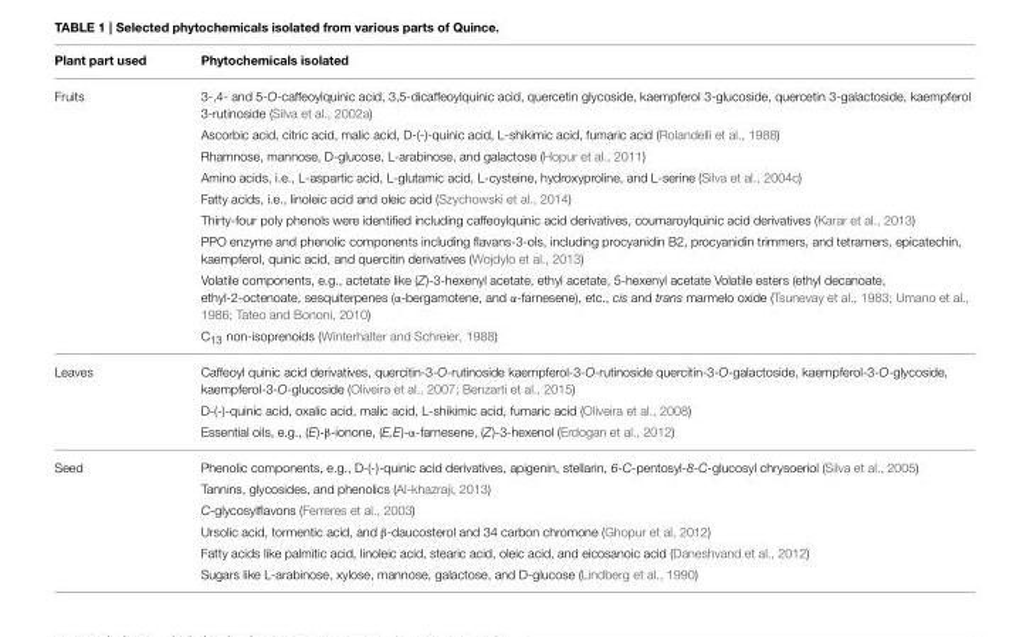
<table><thead><tr><td>Plant part used</td><td>Phytochemicals isolated</td></tr></thead><tbody><tr><td rowspan="9">Fruits</td><td>3-,4- and 5-O-caffeoylquinic acid, 3,5-dicaffeoylquinic acid, quercetin glycoside, kaempferol 3-glucoside, quercetin 3-galactoside, kaempferol 3-rutinoside (Silva et al., 2002a)</td></tr><tr><td>Ascorbic acid, citric acid, malic acid, D-(-)-quinic acid, L-shikimic acid, fumaric acid (Rolandelli et al., 1988)</td></tr><tr><td>Rhamnose, mannose, D-glucose, L-arabinose, and galactose (Hopur et al., 2011)</td></tr><tr><td>Amino acids, i.e., L-aspartic acid, L-glutamic acid, L-cysteine, hydroxyproline, and L-serine (Silva et al., 2004c)</td></tr><tr><td>Fatty acids, i.e., linoleic acid and oleic acid (Szychowski et al., 2014)</td></tr><tr><td>Thirty-four poly phenols were identified including caffeoylquinic acid derivatives, coumaroylquinic acid derivatives (Karar et al., 2013)</td></tr><tr><td>PPO enzyme and phenolic components including flavans-3-ols, including procyanidin B2, procyanidin trimmers, and tetramers, epicatechin, kaempferol, quinic acid, and quercitin derivatives (Wojdylo et al., 2013)</td></tr><tr><td>Volatile components, e.g., actetate like (Z)-3-hexenyl acetate, ethyl acetate, 5-hexenyl acetate Volatile esters (ethyl decanoate, ethyl-2-octenoate, sesquiterpenes (α-bergamotene, and α-farnesene), etc., cis and trans marmelo oxide (Tsunevay et al., 1983; Umano et al., 1986; Tateo and Bononi, 2010)</td></tr><tr><td>C13 non-isoprenoids (Winterhalter and Schreier, 1988)</td></tr><tr><td rowspan="3">Leaves</td><td>Caffeoyl quinic acid derivatives, quercitin-3-O-rutinoside kaempferol-3-O-rutinoside quercitin-3-O-galactoside, kaempferol-3-O-glycoside, kaempferol-3-O-glucoside (Oliveira et al., 2007; Benzarti et al., 2015)</td></tr><tr><td>D-(-)-quinic acid, oxalic acid, malic acid, L-shikimic acid, fumaric acid (Oliveira et al., 2008)</td></tr><tr><td>Essential oils, e.g., (E)-β-ionone, (E,E)-α-farnesene, (Z)-3-hexenol (Erdogan et al., 2012)</td></tr><tr><td rowspan="6">Seed</td><td>Phenolic components, e.g., D-(-)-quinic acid derivatives, apigenin, stellarin, 6-C-pentosyl-8-C-glucosyl chrysoeriol (Silva et al., 2005)</td></tr><tr><td>Tannins, glycosides, and phenolics (Al-khazraji, 2013)</td></tr><tr><td>C-glycosylflavons (Ferreres et al., 2003)</td></tr><tr><td>Ursolic acid, tormentic acid, and β-daucosterol and 34 carbon chromone (Ghopur et al, 2012)</td></tr><tr><td>Fatty acids like palmitic acid, linoleic acid, stearic acid, oleic acid, and eicosanoic acid (Daneshvand et al., 2012)</td></tr><tr><td>Sugars like L-arabinose, xylose, mannose, galactose, and D-glucose (Lindberg et al., 1990)</td></tr></tbody></table>